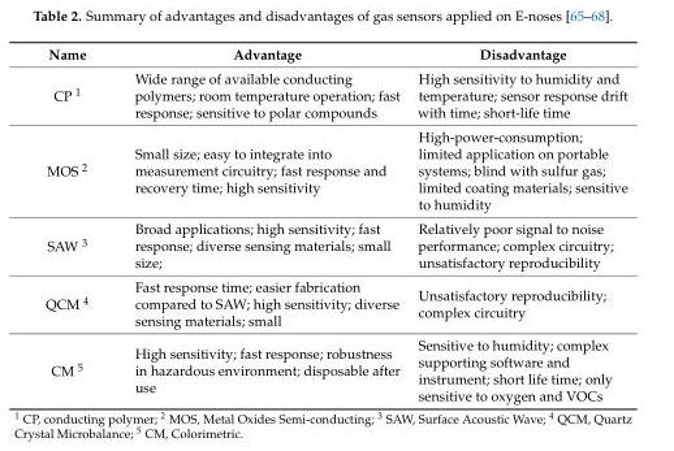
<table><thead><tr><td>Name</td><td>Advantage</td><td>Disadvantage</td></tr></thead><tbody><tr><td>CP <sup>1</sup></td><td>Wide range of available conducting polymers; room temperature operation; fast response; sensitive to polar compounds</td><td>High sensitivity to humidity and temperature; sensor response drift with time; short-life time</td></tr><tr><td>MOS <sup>2</sup></td><td>Small size; easy to integrate into measurement circuitry; fast response and recovery time; high sensitivity</td><td>High-power-consumption; limited application on portable systems; blind with sulfur gas; limited coating materials; sensitive to humidity</td></tr><tr><td>SAW <sup>3</sup></td><td>Broad applications; high sensitivity; fast response; diverse sensing materials; small size;</td><td>Relatively poor signal to noise performance; complex circuitry; unsatisfactory reproducibility</td></tr><tr><td>QCM <sup>4</sup></td><td>Fast response time; easier fabrication compared to SAW; high sensitivity; diverse sensing materials; small</td><td>Unsatisfactory reproducibility; complex circuitry</td></tr><tr><td>CM <sup>5</sup></td><td>High sensitivity; fast response; robustness in hazardous environment; disposable after use</td><td>Sensitive to humidity; complex supporting software and instrument; short life time; only sensitive to oxygen and VOCs</td></tr></tbody></table>